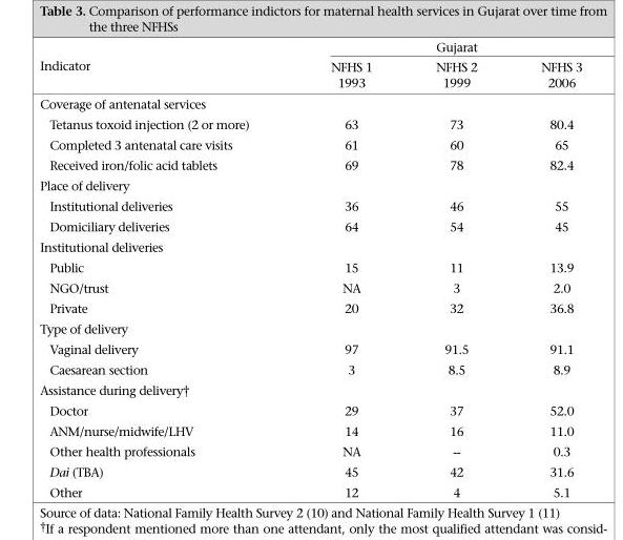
<table><thead><tr><td rowspan="2">Indicator</td><td colspan="3">Gujarat</td></tr><tr><td>NFHS 1 1993</td><td>NFHS 2 1999</td><td>NFHS 3 2006</td></tr></thead><tbody><tr><td colspan="4">Coverage of antenatal services</td></tr><tr><td>Tetanus toxoid injection (2 or more)</td><td>63</td><td>73</td><td>80.4</td></tr><tr><td>Completed 3 antenatal care visits</td><td>61</td><td>60</td><td>65</td></tr><tr><td>Received iron/folic acid tablets</td><td>69</td><td>78</td><td>82.4</td></tr><tr><td colspan="4">Place of delivery</td></tr><tr><td>Institutional deliveries</td><td>36</td><td>46</td><td>55</td></tr><tr><td>Domiciliary deliveries</td><td>64</td><td>54</td><td>45</td></tr><tr><td colspan="4">Institutional deliveries</td></tr><tr><td>Public</td><td>15</td><td>11</td><td>13.9</td></tr><tr><td>NGO/trust</td><td>NA</td><td>3</td><td>2.0</td></tr><tr><td>Private</td><td>20</td><td>32</td><td>36.8</td></tr><tr><td colspan="4">Type of delivery</td></tr><tr><td>Vaginal delivery</td><td>97</td><td>91.5</td><td>91.1</td></tr><tr><td>Caesarean section</td><td>3</td><td>8.5</td><td>8.9</td></tr><tr><td colspan="4">Assistance during delivery†</td></tr><tr><td>Doctor</td><td>29</td><td>37</td><td>52.0</td></tr><tr><td>ANM/nurse/midwife/LHV</td><td>14</td><td>16</td><td>11.0</td></tr><tr><td>Other health professionals</td><td>NA</td><td>--</td><td>0.3</td></tr><tr><td>Dai (TBA)</td><td>45</td><td>42</td><td>31.6</td></tr><tr><td>Other</td><td>12</td><td>4</td><td>5.1</td></tr></tbody></table>